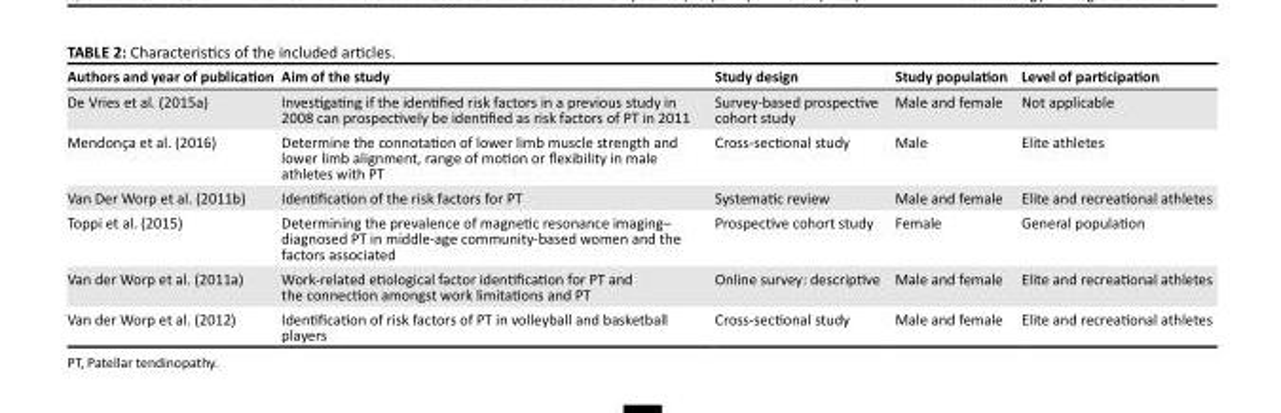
<table><thead><tr><td>Authors and year of publication</td><td>Aim of the study</td><td>Study design</td><td>Study population</td><td>Level of participation</td></tr></thead><tbody><tr><td>De Vries et al. (2015a)</td><td>Investigating if the identified risk factors in a previous study in 2008 can prospectively be identified as risk factors of PT in 2011</td><td>Survey-based prospective cohort study</td><td>Male and female</td><td>Not applicable</td></tr><tr><td>Mendonça et al. (2016)</td><td>Determine the connotation of lower limb muscle strength and lower limb alignment, range of motion or flexibility in male athletes with PT</td><td>Cross-sectional study</td><td>Male</td><td>Elite athletes</td></tr><tr><td>Van Der Worp et al. (2011b)</td><td>Identification of the risk factors for PT</td><td>Systematic review</td><td>Male and female</td><td>Elite and recreational athletes</td></tr><tr><td>Toppi et al. (2015)</td><td>Determining the prevalence of magnetic resonance imaging– diagnosed PT in middle-age community-based women and the factors associated</td><td>Prospective cohort study</td><td>Female</td><td>General population</td></tr><tr><td>Van der Worp et al. (2011a)</td><td>Work-related etiological factor identification for PT and the connection amongst work limitations and PT</td><td>Online survey: descriptive</td><td>Male and female</td><td>Elite and recreational athletes</td></tr><tr><td>Van der Worp et al. (2012)</td><td>Identification of risk factors of PT in volleyball and basketball players</td><td>Cross-sectional study</td><td>Male and female</td><td>Elite and recreational athletes</td></tr></tbody></table>